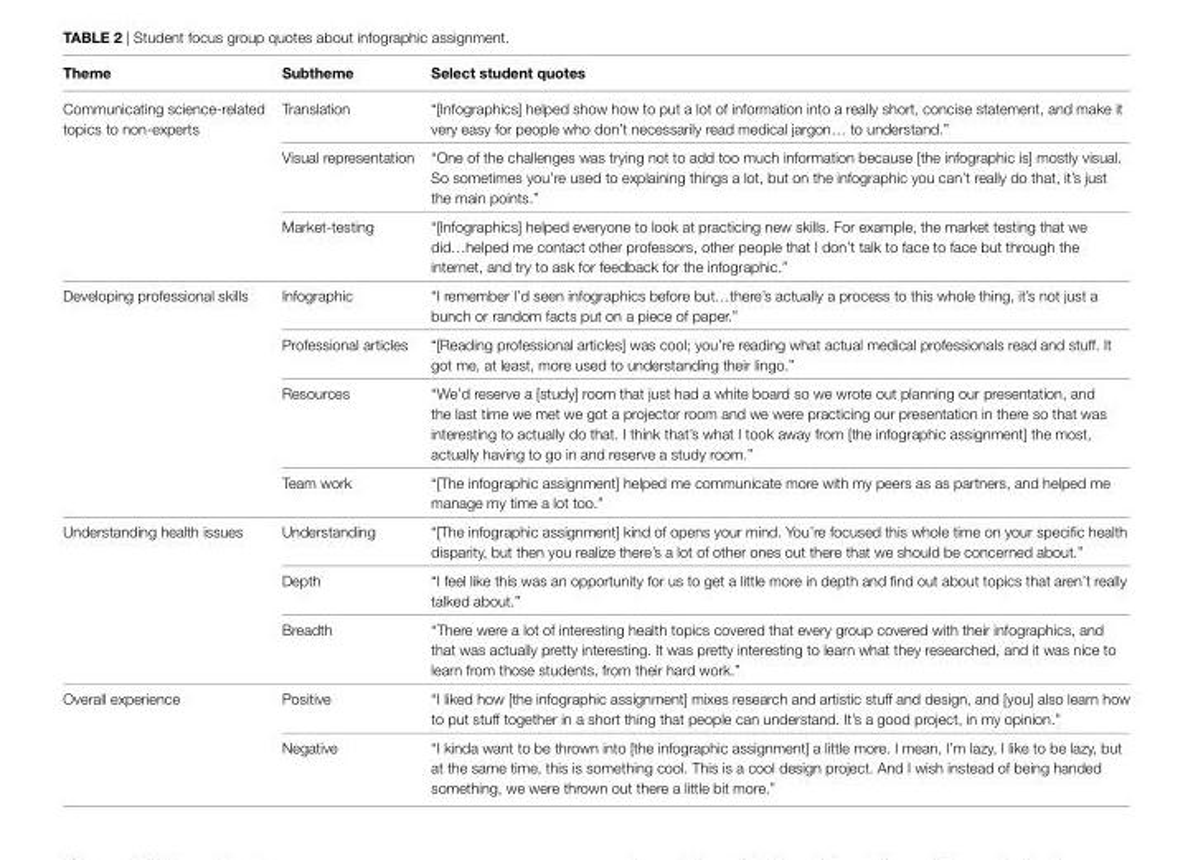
<table><thead><tr><td>theme</td><td>subtheme</td><td>select student quotes</td></tr></thead><tbody><tr><td rowspan="3">Communicating science-related topics to non-experts</td><td>Translation</td><td>“[Infographics] helped show how to put a lot of information into a really short, concise statement, and make it very easy for people who don’t necessarily read medical jargon… to understand.”</td></tr><tr><td>Visual representation</td><td>“One of the challenges was trying not to add too much information because [the infographic is] mostly visual. So sometimes you’re used to explaining things a lot, but on the infographic you can’t really do that, it’s just the main points.”</td></tr><tr><td>Market-testing</td><td>“[Infographics] helped everyone to look at practicing new skills. For example, the market testing that we did…helped me contact other professors, other people that I don’t talk to face to face but through the internet, and try to ask for feedback for the infographic.”</td></tr><tr><td rowspan="4">Developing professional skills</td><td>Infographic</td><td>“I remember I’d seen infographics before but…there’s actually a process to this whole thing, it’s not just a bunch or random facts put on a piece of paper.”</td></tr><tr><td>Professional articles</td><td>“[Reading professional articles] was cool; you’re reading what actual medical professionals read and stuff. It got me, at least, more used to understanding their lingo.”</td></tr><tr><td>Resources</td><td>“We’d reserve a [study] room that just had a white board so we wrote out planning our presentation, and the last time we met we got a projector room and we were practicing our presentation in there so that was interesting to actually do that. I think that’s what I took away from [the infographic assignment] the most, actually having to go in and reserve a study room.”</td></tr><tr><td>Team work</td><td>“[The infographic assignment] helped me communicate more with my peers as as partners, and helped me manage my time a lot too.”</td></tr><tr><td rowspan="3">Understanding health issues</td><td>Understanding</td><td>“[The infographic assignment] kind of opens your mind. You’re focused this whole time on your specific health disparity, but then you realize there’s a lot of other ones out there that we should be concerned about.”</td></tr><tr><td>Depth</td><td>“I feel like this was an opportunity for us to get a little more in depth and find out about topics that aren’t really talked about.”</td></tr><tr><td>Breadth</td><td>“There were a lot of interesting health topics covered that every group covered with their infographics, and that was actually pretty interesting. It was pretty interesting to learn what they researched, and it was nice to learn from those students, from their hard work.”</td></tr><tr><td rowspan="2">Overall experience</td><td>Positive</td><td>“I liked how [the infographic assignment] mixes research and artistic stuff and design, and [you] also learn how to put stuff together in a short thing that people can understand. It’s a good project, in my opinion.”</td></tr><tr><td>Negative</td><td>“I kinda want to be thrown into [the infographic assignment] a little more. I mean, I’m lazy, I like to be lazy, but at the same time, this is something cool. This is a cool design project. And I wish instead of being handed something, we were thrown out there a little bit more.”</td></tr></tbody></table>